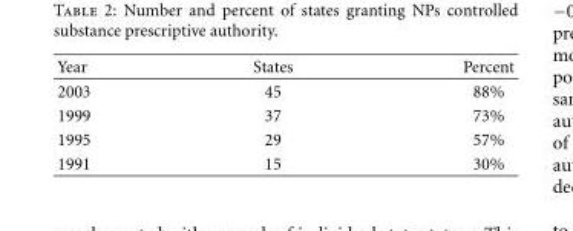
<table><thead><tr><td>Year</td><td>States</td><td>Percent</td></tr></thead><tbody><tr><td>2003</td><td>45</td><td>88%</td></tr><tr><td>1999</td><td>37</td><td>73%</td></tr><tr><td>1995</td><td>29</td><td>57%</td></tr><tr><td>1991</td><td>15</td><td>30%</td></tr></tbody></table>